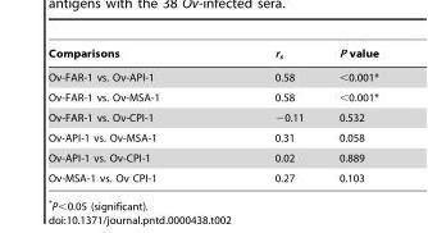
<table><thead><tr><td>Comparisons</td><td>r<sub>s</sub></td><td>P value</td></tr></thead><tbody><tr><td>Ov-FAR-1 vs. Ov-API-1</td><td>0.58</td><td>&lt;0.001*</td></tr><tr><td>Ov-FAR-1 vs. Ov-MSA-1</td><td>0.58</td><td>&lt;0.001*</td></tr><tr><td>Ov-FAR-1 vs. Ov-CPI-1</td><td>−0.11</td><td>0.532</td></tr><tr><td>Ov-API-1 vs. Ov-MSA-1</td><td>0.31</td><td>0.058</td></tr><tr><td>Ov-API-1 vs. Ov-CPI-1</td><td>0.02</td><td>0.889</td></tr><tr><td>Ov-MSA-1 vs. Ov CPI-1</td><td>0.27</td><td>0.103</td></tr></tbody></table>